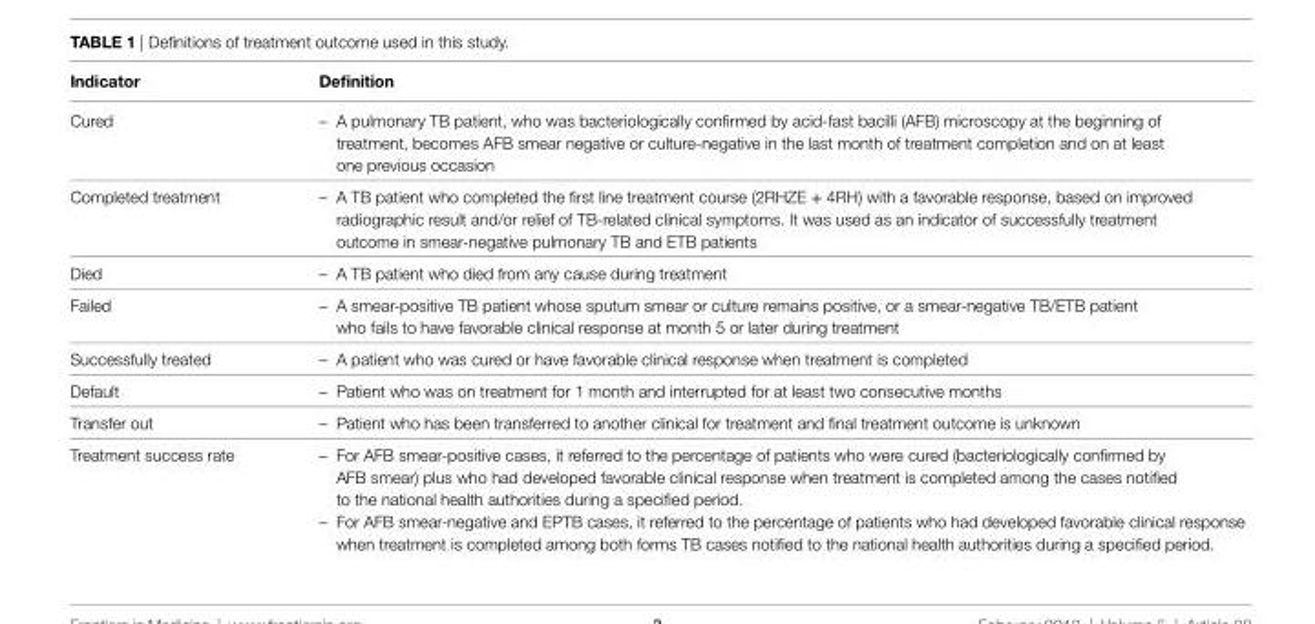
<table><thead><tr><td>indicator</td><td>Definition</td></tr></thead><tbody><tr><td>Cured</td><td>– A pulmonary TB patient, who was bacteriologically confirmed by acid-fast bacilli (AFB) microscopy at the beginning of treatment, becomes AFB smear negative or culture-negative in the last month of treatment completion and on at least one previous occasion</td></tr><tr><td>Completed treatment</td><td>– A TB patient who completed the first line treatment course (2RHZE + 4RH) with a favorable response, based on improved radiographic result and/or relief of TB-related clinical symptoms. It was used as an indicator of successfully treatment outcome in smear-negative pulmonary TB and ETB patients</td></tr><tr><td>Died</td><td>– A TB patient who died from any cause during treatment</td></tr><tr><td>Failed</td><td>– A smear-positive TB patient whose sputum smear or culture remains positive, or a smear-negative TB/ETB patient who fails to have favorable clinical response at month 5 or later during treatment</td></tr><tr><td>Successfully treated</td><td>– A patient who was cured or have favorable clinical response when treatment is completed</td></tr><tr><td>Default</td><td>– Patient who was on treatment for 1 month and interrupted for at least two consecutive months</td></tr><tr><td>Transfer out</td><td>– Patient who has been transferred to another clinical for treatment and final treatment outcome is unknown</td></tr><tr><td>Treatment success rate</td><td>– For AFB smear-positive cases, it referred to the percentage of patients who were cured (bacteriologically confirmed by AFB smear) plus who had developed favorable clinical response when treatment is completed among the cases notified to the national health authorities during a specified period. – For AFB smear-negative and EPTB cases, it referred to the percentage of patients who had developed favorable clinical response when treatment is completed among both forms TB cases notified to the national health authorities during a specified period.</td></tr></tbody></table>